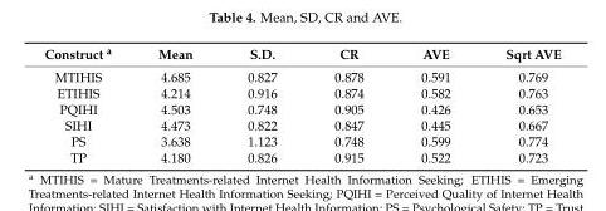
<table><thead><tr><td>Construct <sup>a</sup></td><td>Mean</td><td>S.D.</td><td>CR</td><td>AVE</td><td>Sqrt AVE</td></tr></thead><tbody><tr><td>MTIHIS</td><td>4.685</td><td>0.827</td><td>0.878</td><td>0.591</td><td>0.769</td></tr><tr><td>ETIHIS</td><td>4.214</td><td>0.916</td><td>0.874</td><td>0.582</td><td>0.763</td></tr><tr><td>PQIHI</td><td>4.503</td><td>0.748</td><td>0.905</td><td>0.426</td><td>0.653</td></tr><tr><td>SIHI</td><td>4.473</td><td>0.822</td><td>0.847</td><td>0.445</td><td>0.667</td></tr><tr><td>PS</td><td>3.638</td><td>1.123</td><td>0.748</td><td>0.599</td><td>0.774</td></tr><tr><td>TP</td><td>4.180</td><td>0.826</td><td>0.915</td><td>0.522</td><td>0.723</td></tr></tbody></table>